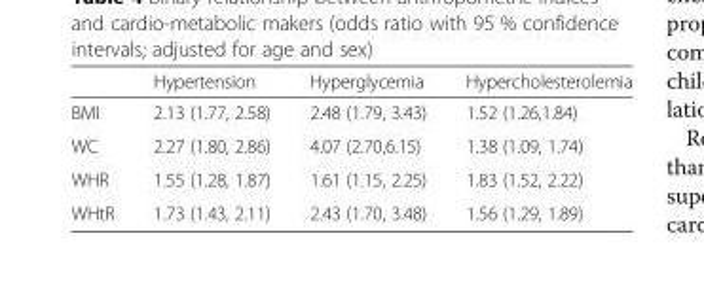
<table><thead><tr><td></td><td>Hypertension</td><td>Hyperglycemia</td><td>Hypercholesterolemia</td></tr></thead><tbody><tr><td>BMI</td><td>2.13 (1.77, 2.58)</td><td>2.48 (1.79, 3.43)</td><td>1.52 (1.26,1.84)</td></tr><tr><td>WC</td><td>2.27 (1.80, 2.86)</td><td>4.07 (2.70,6.15)</td><td>1.38 (1.09, 1.74)</td></tr><tr><td>WHR</td><td>1.55 (1.28, 1.87)</td><td>1.61 (1.15, 2.25)</td><td>1.83 (1.52, 2.22)</td></tr><tr><td>WHtR</td><td>1.73 (1.43, 2.11)</td><td>2.43 (1.70, 3.48)</td><td>1.56 (1.29, 1.89)</td></tr></tbody></table>